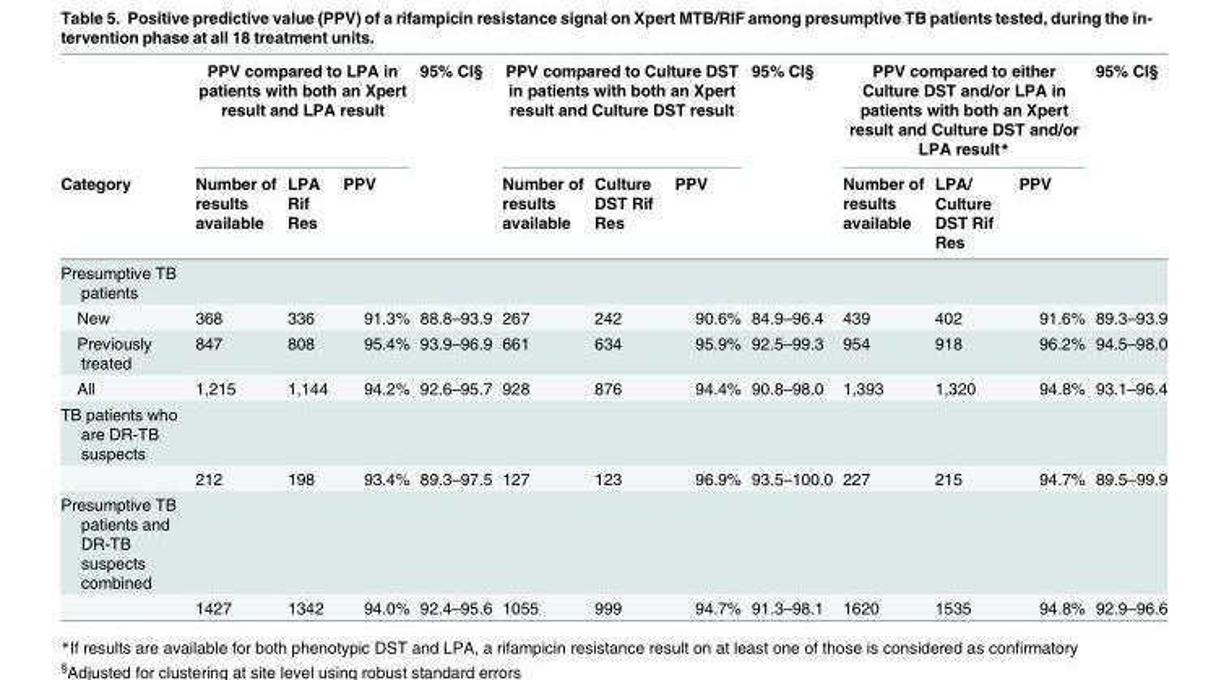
<table><thead><tr><td rowspan="2">Category</td><td colspan="3">PPV compared to LPA in patients with both an Xpert result and LPA result</td><td rowspan="2">95% CI§</td><td colspan="3">PPV compared to Culture DST in patients with both an Xpert result and Culture DST result</td><td rowspan="2">95% CI§</td><td colspan="3">PPV compared to either Culture DST and/or LPA in patients with both an Xpert result and Culture DST and/or LPA result*</td><td rowspan="2">95% CI§</td></tr><tr><td>Number of results available</td><td>LPA Rif Res</td><td>PPV</td><td>Number of results available</td><td>Culture DST Rif Res</td><td>PPV</td><td>Number of results available</td><td>LPA/ Culture DST Rif Res</td><td>PPV</td></tr></thead><tbody><tr><td colspan="13">Presumptive TB patients</td></tr><tr><td>New</td><td>368</td><td>336</td><td>91.3%</td><td>88.8–93.9</td><td>267</td><td>242</td><td>90.6%</td><td>84.9–96.4</td><td>439</td><td>402</td><td>91.6%</td><td>89.3–93.9</td></tr><tr><td>Previously treated</td><td>847</td><td>808</td><td>95.4%</td><td>93.9–96.9</td><td>661</td><td>634</td><td>95.9%</td><td>92.5–99.3</td><td>954</td><td>918</td><td>96.2%</td><td>94.5–98.0</td></tr><tr><td>All</td><td>1,215</td><td>1,144</td><td>94.2%</td><td>92.6–95.7</td><td>928</td><td>876</td><td>94.4%</td><td>90.8–98.0</td><td>1,393</td><td>1,320</td><td>94.8%</td><td>93.1–96.4</td></tr><tr><td colspan="13">TB patients who are DR-TB suspects</td></tr><tr><td></td><td>212</td><td>198</td><td>93.4%</td><td>89.3–97.5</td><td>127</td><td>123</td><td>96.9%</td><td>93.5–100.0</td><td>227</td><td>215</td><td>94.7%</td><td>89.5–99.9</td></tr><tr><td colspan="13">Presumptive TB patients and DR-TB suspects combined</td></tr><tr><td></td><td>1427</td><td>1342</td><td>94.0%</td><td>92.4–95.6</td><td>1055</td><td>999</td><td>94.7%</td><td>91.3–98.1</td><td>1620</td><td>1535</td><td>94.8%</td><td>92.9–96.6</td></tr></tbody></table>